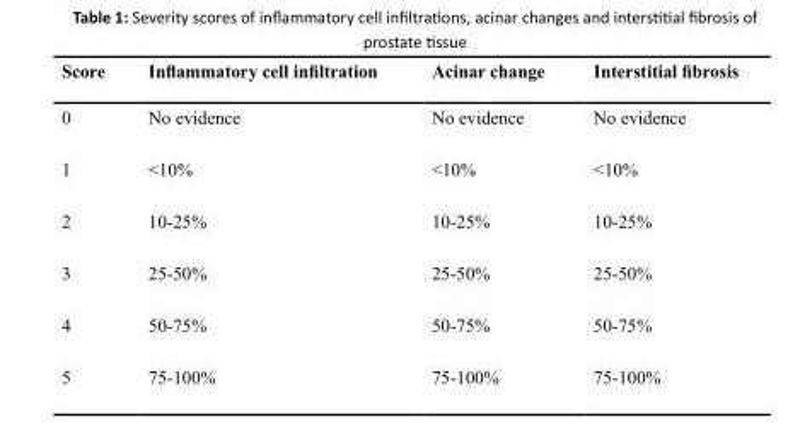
<table><thead><tr><td>Score</td><td>Inflammatory cell infiltration</td><td>Acinar change</td><td>Interstitial fibrosis</td></tr></thead><tbody><tr><td>0</td><td>No evidence</td><td>No evidence</td><td>No evidence</td></tr><tr><td>1</td><td>&lt;10%</td><td>&lt;10%</td><td>&lt;10%</td></tr><tr><td>2</td><td>10-25%</td><td>10-25%</td><td>10-25%</td></tr><tr><td>3</td><td>25-50%</td><td>25-50%</td><td>25-50%</td></tr><tr><td>4</td><td>50-75%</td><td>50-75%</td><td>50-75%</td></tr><tr><td>5</td><td>75-100%</td><td>75-100%</td><td>75-100%</td></tr></tbody></table>